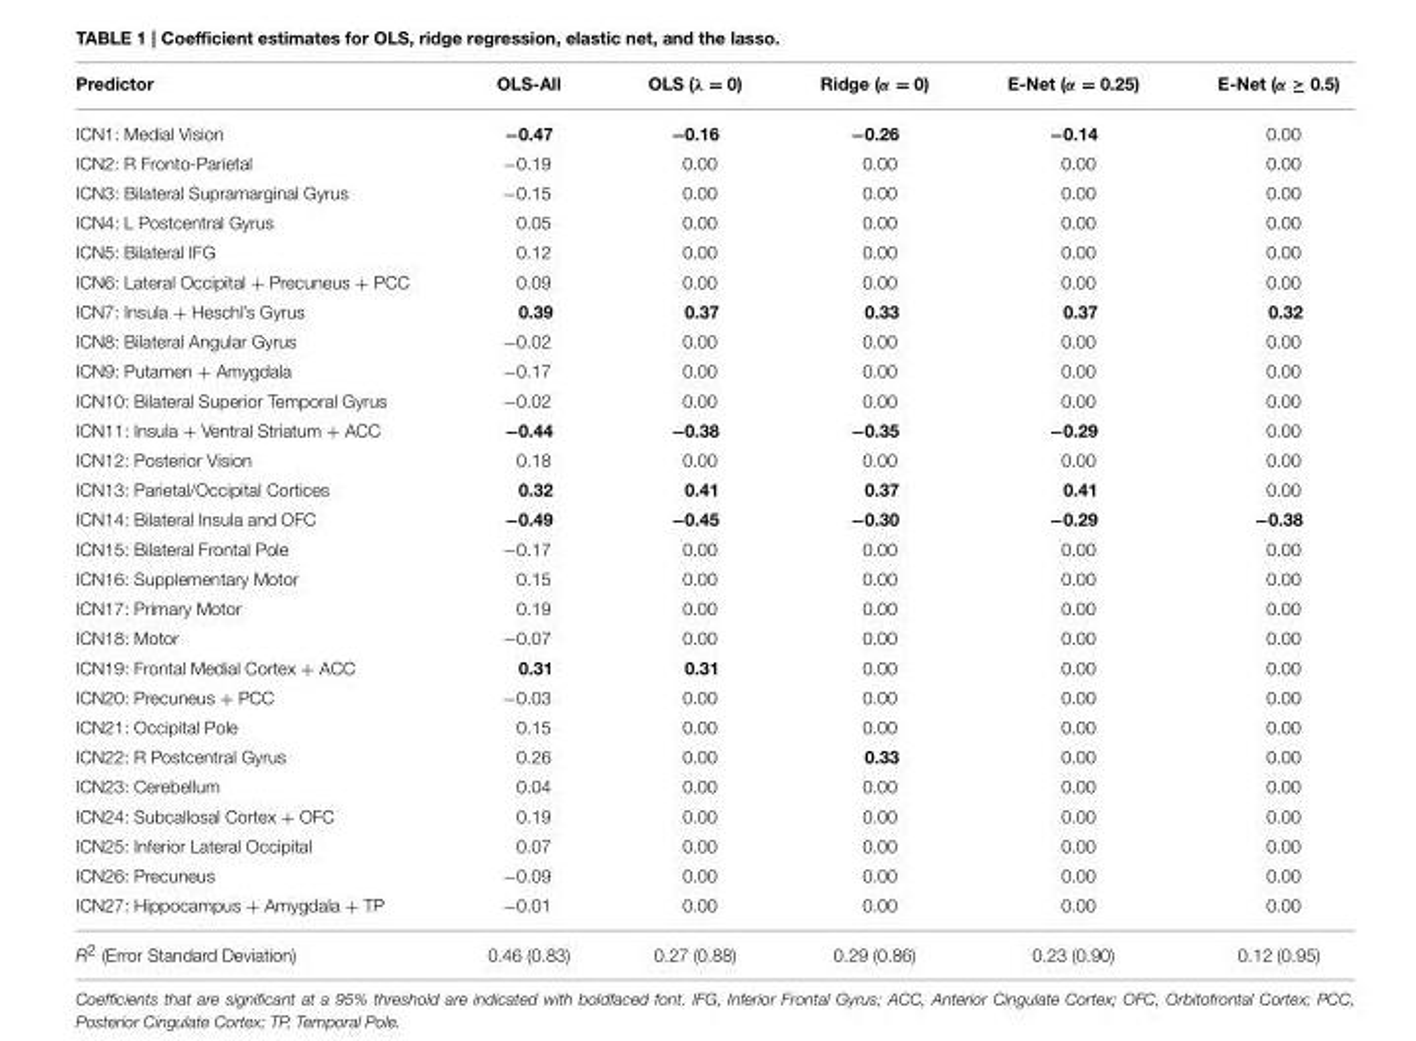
<table><thead><tr><td>Predictor</td><td>OLS-All</td><td>OLS (λ = 0)</td><td>Ridge (α = 0)</td><td>E-Net (α = 0.25)</td><td>E-Net (α ≥ 0.5)</td></tr></thead><tbody><tr><td>ICN1: Medial Vision</td><td>−0.47</td><td>−0.16</td><td>−0.26</td><td>−0.14</td><td>0.00</td></tr><tr><td>ICN2: R Fronto-Parietal</td><td>−0.19</td><td>0.00</td><td>0.00</td><td>0.00</td><td>0.00</td></tr><tr><td>ICN3: Bilateral Supramarginal Gyrus</td><td>−0.15</td><td>0.00</td><td>0.00</td><td>0.00</td><td>0.00</td></tr><tr><td>ICN4: L Postcentral Gyrus</td><td>0.05</td><td>0.00</td><td>0.00</td><td>0.00</td><td>0.00</td></tr><tr><td>ICN5: Bilateral IFG</td><td>0.12</td><td>0.00</td><td>0.00</td><td>0.00</td><td>0.00</td></tr><tr><td>ICN6: Lateral Occipital + Precuneus + PCC</td><td>0.09</td><td>0.00</td><td>0.00</td><td>0.00</td><td>0.00</td></tr><tr><td>ICN7: Insula + Heschl’s Gyrus</td><td>0.39</td><td>0.37</td><td>0.33</td><td>0.37</td><td>0.32</td></tr><tr><td>ICN8: Bilateral Angular Gyrus</td><td>−0.02</td><td>0.00</td><td>0.00</td><td>0.00</td><td>0.00</td></tr><tr><td>ICN9: Putamen + Amygdala</td><td>−0.17</td><td>0.00</td><td>0.00</td><td>0.00</td><td>0.00</td></tr><tr><td>ICN10: Bilateral Superior Temporal Gyrus</td><td>−0.02</td><td>0.00</td><td>0.00</td><td>0.00</td><td>0.00</td></tr><tr><td>ICN11: Insula + Ventral Striatum + ACC</td><td>−0.44</td><td>−0.38</td><td>−0.35</td><td>−0.29</td><td>0.00</td></tr><tr><td>ICN12: Posterior Vision</td><td>0.18</td><td>0.00</td><td>0.00</td><td>0.00</td><td>0.00</td></tr><tr><td>ICN13: Parietal/Occipital Cortices</td><td>0.32</td><td>0.41</td><td>0.37</td><td>0.41</td><td>0.00</td></tr><tr><td>ICN14: Bilateral Insula and OFC</td><td>−0.49</td><td>−0.45</td><td>−0.30</td><td>−0.29</td><td>−0.38</td></tr><tr><td>ICN15: Bilateral Frontal Pole</td><td>−0.17</td><td>0.00</td><td>0.00</td><td>0.00</td><td>0.00</td></tr><tr><td>ICN16: Supplementary Motor</td><td>0.15</td><td>0.00</td><td>0.00</td><td>0.00</td><td>0.00</td></tr><tr><td>ICN17: Primary Motor</td><td>0.19</td><td>0.00</td><td>0.00</td><td>0.00</td><td>0.00</td></tr><tr><td>ICN18: Motor</td><td>−0.07</td><td>0.00</td><td>0.00</td><td>0.00</td><td>0.00</td></tr><tr><td>ICN19: Frontal Medial Cortex + ACC</td><td>0.31</td><td>0.31</td><td>0.00</td><td>0.00</td><td>0.00</td></tr><tr><td>ICN20: Precuneus + PCC</td><td>−0.03</td><td>0.00</td><td>0.00</td><td>0.00</td><td>0.00</td></tr><tr><td>ICN21: Occipital Pole</td><td>0.15</td><td>0.00</td><td>0.00</td><td>0.00</td><td>0.00</td></tr><tr><td>ICN22: R Postcentral Gyrus</td><td>0.26</td><td>0.00</td><td>0.33</td><td>0.00</td><td>0.00</td></tr><tr><td>ICN23: Cerebellum</td><td>0.04</td><td>0.00</td><td>0.00</td><td>0.00</td><td>0.00</td></tr><tr><td>ICN24: Subcallosal Cortex + OFC</td><td>0.19</td><td>0.00</td><td>0.00</td><td>0.00</td><td>0.00</td></tr><tr><td>ICN25: Inferior Lateral Occipital</td><td>0.07</td><td>0.00</td><td>0.00</td><td>0.00</td><td>0.00</td></tr><tr><td>ICN26: Precuneus</td><td>−0.09</td><td>0.00</td><td>0.00</td><td>0.00</td><td>0.00</td></tr><tr><td>ICN27: Hippocampus + Amygdala + TP</td><td>−0.01</td><td>0.00</td><td>0.00</td><td>0.00</td><td>0.00</td></tr><tr><td>R<sup>2</sup> (Error Standard Deviation)</td><td>0.46 (0.83)</td><td>0.27 (0.88)</td><td>0.29 (0.86)</td><td>0.23 (0.90)</td><td>0.12 (0.95)</td></tr></tbody></table>